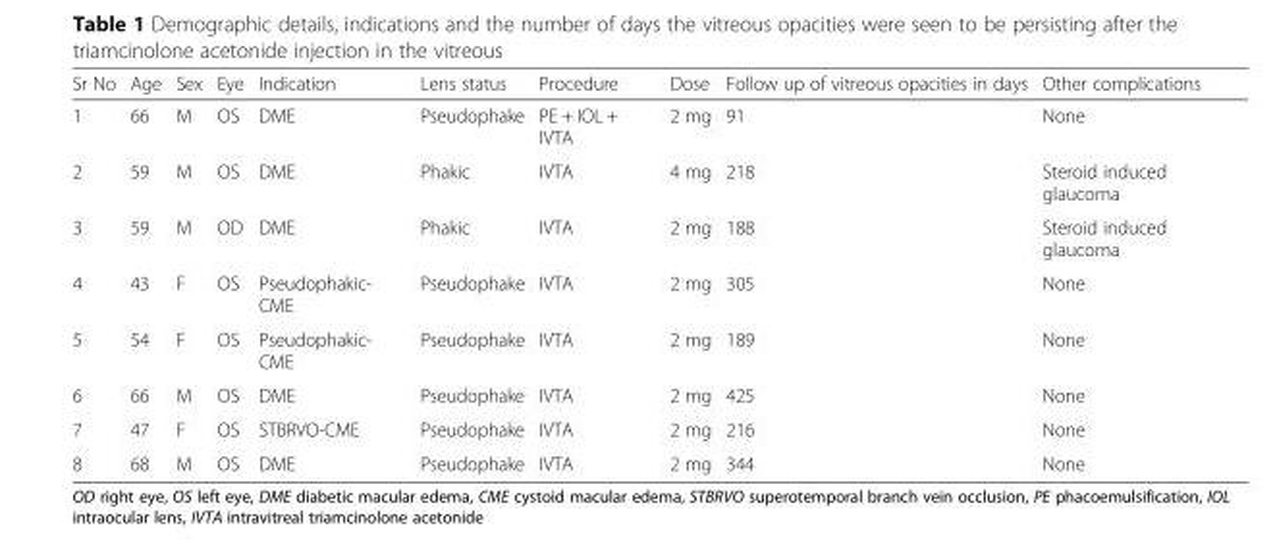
<table><thead><tr><td>Sr No</td><td>Age</td><td>Sex</td><td>Eye</td><td>Indication</td><td>Lens status</td><td>Procedure</td><td>Dose</td><td>Follow up of vitreous opacities in days</td><td>Other complications</td></tr></thead><tbody><tr><td>1</td><td>66</td><td>M</td><td>OS</td><td>DME</td><td>Pseudophake</td><td>PE + IOL + IVTA</td><td>2 mg</td><td>91</td><td>None</td></tr><tr><td>2</td><td>59</td><td>M</td><td>OS</td><td>DME</td><td>Phakic</td><td>IVTA</td><td>4 mg</td><td>218</td><td>Steroid induced glaucoma</td></tr><tr><td>3</td><td>59</td><td>M</td><td>OD</td><td>DME</td><td>Phakic</td><td>IVTA</td><td>2 mg</td><td>188</td><td>Steroid induced glaucoma</td></tr><tr><td>4</td><td>43</td><td>F</td><td>OS</td><td>Pseudophakic- CME</td><td>Pseudophake</td><td>IVTA</td><td>2 mg</td><td>305</td><td>None</td></tr><tr><td>5</td><td>54</td><td>F</td><td>OS</td><td>Pseudophakic- CME</td><td>Pseudophake</td><td>IVTA</td><td>2 mg</td><td>189</td><td>None</td></tr><tr><td>6</td><td>66</td><td>M</td><td>OS</td><td>DME</td><td>Pseudophake</td><td>IVTA</td><td>2 mg</td><td>425</td><td>None</td></tr><tr><td>7</td><td>47</td><td>F</td><td>OS</td><td>STBRVO-CME</td><td>Pseudophake</td><td>IVTA</td><td>2 mg</td><td>216</td><td>None</td></tr><tr><td>8</td><td>68</td><td>M</td><td>OS</td><td>DME</td><td>Pseudophake</td><td>IVTA</td><td>2 mg</td><td>344</td><td>None</td></tr></tbody></table>